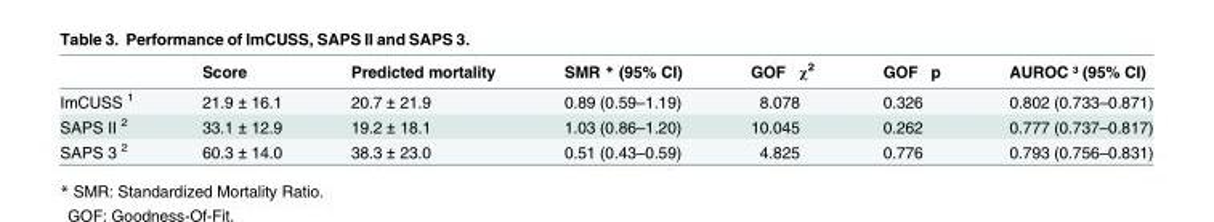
<table><thead><tr><td></td><td>Score</td><td>Predicted mortality</td><td>SMR * (95% CI)</td><td>GOF ₸ χ<sup>2</sup></td><td>GOF ₸ p</td><td>AUROC ³ (95% CI)</td></tr></thead><tbody><tr><td>ImCUSS <sup>1</sup></td><td>21.9 ± 16.1</td><td>20.7 ± 21.9</td><td>0.89 (0.59–1.19)</td><td>8.078</td><td>0.326</td><td>0.802 (0.733–0.871)</td></tr><tr><td>SAPS II <sup>2</sup></td><td>33.1 ± 12.9</td><td>19.2 ± 18.1</td><td>1.03 (0.86–1.20)</td><td>10.045</td><td>0.262</td><td>0.777 (0.737–0.817)</td></tr><tr><td>SAPS 3 <sup>2</sup></td><td>60.3 ± 14.0</td><td>38.3 ± 23.0</td><td>0.51 (0.43–0.59)</td><td>4.825</td><td>0.776</td><td>0.793 (0.756–0.831)</td></tr></tbody></table>